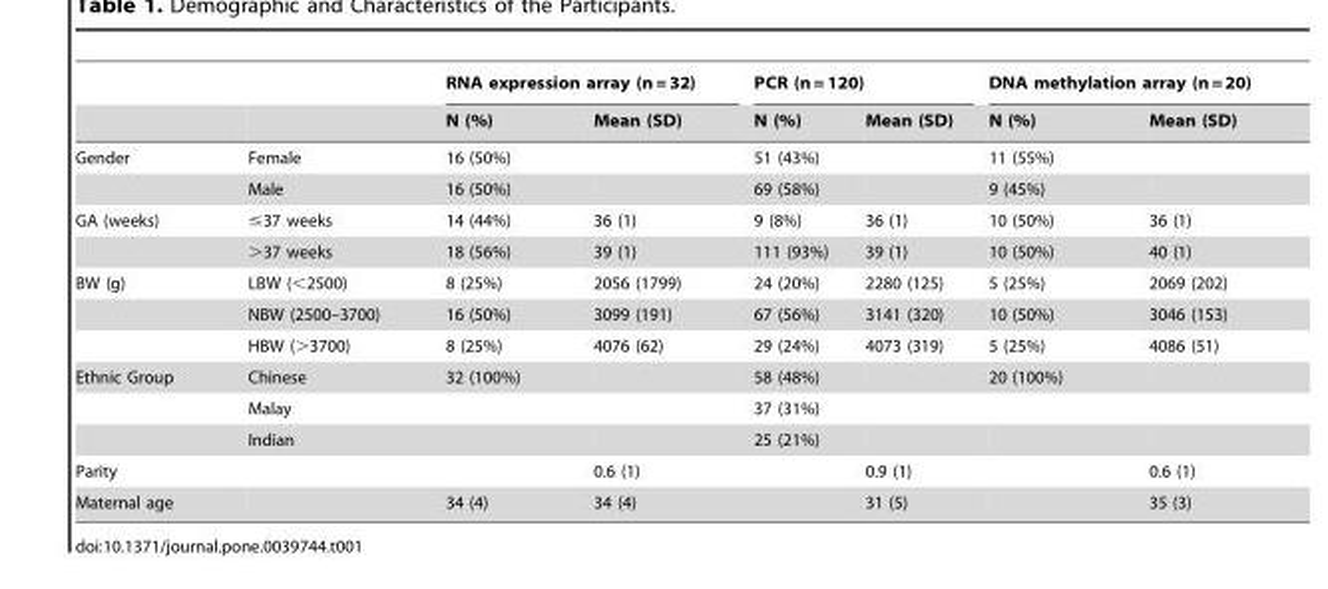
<table><thead><tr><td rowspan="2"></td><td rowspan="2"></td><td colspan="2">RNA expression array (n = 32)</td><td colspan="2">PCR (n = 120)</td><td colspan="2">DNA methylation array (n = 20)</td></tr><tr><td>N (%)</td><td>Mean (SD)</td><td>N (%)</td><td>Mean (SD)</td><td>N (%)</td><td>Mean (SD)</td></tr></thead><tbody><tr><td rowspan="2">Gender</td><td>Female</td><td>16 (50%)</td><td></td><td>51 (43%)</td><td></td><td>11 (55%)</td><td></td></tr><tr><td>Male</td><td>16 (50%)</td><td></td><td>69 (58%)</td><td></td><td>9 (45%)</td><td></td></tr><tr><td rowspan="2">GA (weeks)</td><td>≤37 weeks</td><td>14 (44%)</td><td>36 (1)</td><td>9 (8%)</td><td>36 (1)</td><td>10 (50%)</td><td>36 (1)</td></tr><tr><td>&gt;37 weeks</td><td>18 (56%)</td><td>39 (1)</td><td>111 (93%)</td><td>39 (1)</td><td>10 (50%)</td><td>40 (1)</td></tr><tr><td rowspan="3">BW (g)</td><td>LBW (&lt;2500)</td><td>8 (25%)</td><td>2056 (1799)</td><td>24 (20%)</td><td>2280 (125)</td><td>5 (25%)</td><td>2069 (202)</td></tr><tr><td>NBW (2500–3700)</td><td>16 (50%)</td><td>3099 (191)</td><td>67 (56%)</td><td>3141 (320)</td><td>10 (50%)</td><td>3046 (153)</td></tr><tr><td>HBW (&gt;3700)</td><td>8 (25%)</td><td>4076 (62)</td><td>29 (24%)</td><td>4073 (319)</td><td>5 (25%)</td><td>4086 (51)</td></tr><tr><td rowspan="3">Ethnic Group</td><td>Chinese</td><td>32 (100%)</td><td></td><td>58 (48%)</td><td></td><td>20 (100%)</td><td></td></tr><tr><td>Malay</td><td></td><td></td><td>37 (31%)</td><td></td><td></td><td></td></tr><tr><td>Indian</td><td></td><td></td><td>25 (21%)</td><td></td><td></td><td></td></tr><tr><td>Parity</td><td></td><td></td><td>0.6 (1)</td><td></td><td>0.9 (1)</td><td></td><td>0.6 (1)</td></tr><tr><td>Maternal age</td><td></td><td>34 (4)</td><td>34 (4)</td><td></td><td>31 (5)</td><td></td><td>35 (3)</td></tr></tbody></table>